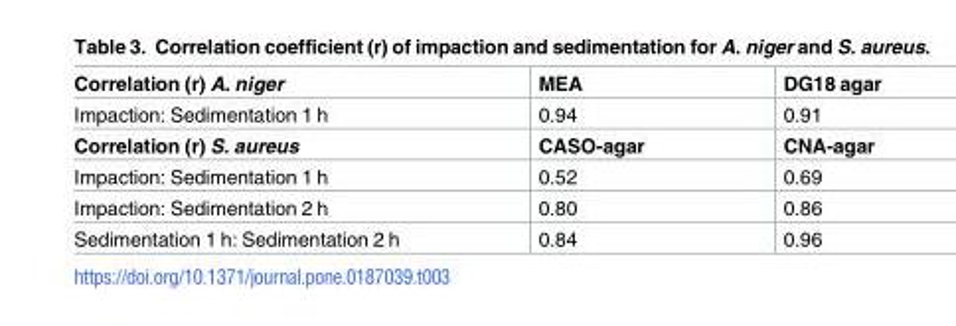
<table><tbody><tr><td>Correlation (r) A. niger</td><td>MEA</td><td>DG18 agar</td></tr><tr><td>Impaction: Sedimentation 1 h</td><td>0.94</td><td>0.91</td></tr><tr><td>Correlation (r) S. aureus</td><td>CASO-agar</td><td>CNA-agar</td></tr><tr><td>Impaction: Sedimentation 1 h</td><td>0.52</td><td>0.69</td></tr><tr><td>Impaction: Sedimentation 2 h</td><td>0.80</td><td>0.86</td></tr><tr><td>Sedimentation 1 h: Sedimentation 2 h</td><td>0.84</td><td>0.96</td></tr></tbody></table>